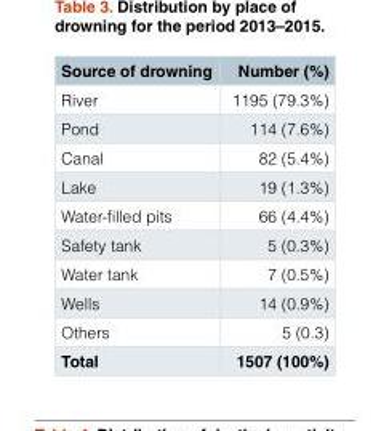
<table><thead><tr><td>Source of drowning</td><td>Number (%)</td></tr></thead><tbody><tr><td>River</td><td>1195 (79.3%)</td></tr><tr><td>Pond</td><td>114 (7.6%)</td></tr><tr><td>Canal</td><td>82 (5.4%)</td></tr><tr><td>Lake</td><td>19 (1.3%)</td></tr><tr><td>Water-filled pits</td><td>66 (4.4%)</td></tr><tr><td>Safety tank</td><td>5 (0.3%)</td></tr><tr><td>Water tank</td><td>7 (0.5%)</td></tr><tr><td>Wells</td><td>14 (0.9%)</td></tr><tr><td>Others</td><td>5 (0.3)</td></tr><tr><td>Total</td><td>1507 (100%)</td></tr></tbody></table>